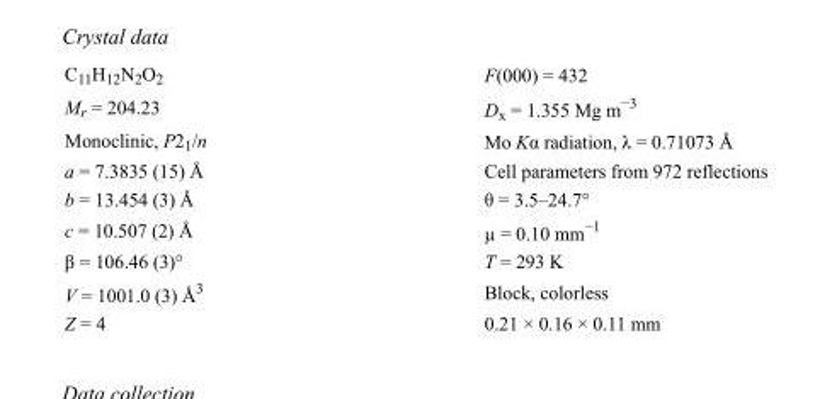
<table><tbody><tr><td>C<sub>11</sub>H<sub>12</sub>N<sub>2</sub>O<sub>2</sub></td><td>F(000) = 432</td></tr><tr><td>M<sub>r</sub> = 204.23</td><td>D<sub>x</sub> = 1.355 Mg m<sup>−3</sup></td></tr><tr><td>Monoclinic, P2<sub>1</sub>/n</td><td>Mo Kα radiation, λ = 0.71073 Å</td></tr><tr><td>a = 7.3835 (15) Å</td><td>Cell parameters from 972 reflections</td></tr><tr><td>b = 13.454 (3) Å</td><td>θ = 3.5–24.7°</td></tr><tr><td>c = 10.507 (2) Å</td><td>µ = 0.10 mm<sup>−1</sup></td></tr><tr><td>β = 106.46 (3)°</td><td>T = 293 K</td></tr><tr><td>V = 1001.0 (3) Å<sup>3</sup></td><td>Block, colorless</td></tr><tr><td>Z = 4</td><td>0.21 × 0.16 × 0.11 mm</td></tr></tbody></table>